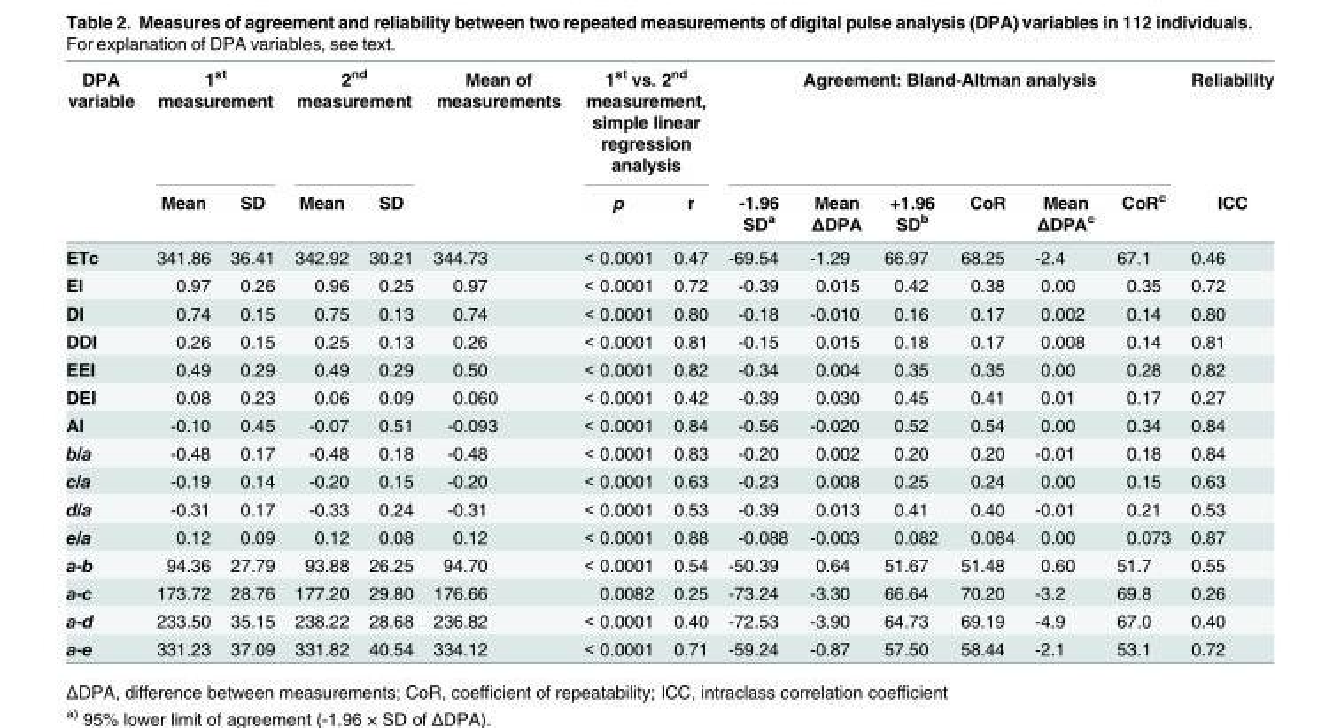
<table><thead><tr><td rowspan="2">DPA variable</td><td colspan="2">1<sup>st</sup> measurement</td><td colspan="2">2<sup>nd</sup> measurement</td><td rowspan="2">Mean of measurements</td><td colspan="2">1<sup>st</sup> vs. 2<sup>nd</sup> measurement, simple linear regression analysis</td><td colspan="6">Agreement: Bland-Altman analysis</td><td rowspan="2">Reliability ICC</td></tr><tr><td>Mean</td><td>SD</td><td>Mean</td><td>SD</td><td>p</td><td>r</td><td>-1.96 SD<sup>a</sup></td><td>Mean ΔDPA</td><td>+1.96 SD<sup>b</sup></td><td>CoR</td><td>Mean ΔDPA<sup>c</sup></td><td>CoR<sup>c</sup></td></tr></thead><tbody><tr><td>ETc</td><td>341.86</td><td>36.41</td><td>342.92</td><td>30.21</td><td>344.73</td><td>&lt; 0.0001</td><td>0.47</td><td>-69.54</td><td>-1.29</td><td>66.97</td><td>68.25</td><td>-2.4</td><td>67.1</td><td>0.46</td></tr><tr><td>EI</td><td>0.97</td><td>0.26</td><td>0.96</td><td>0.25</td><td>0.97</td><td>&lt; 0.0001</td><td>0.72</td><td>-0.39</td><td>0.015</td><td>0.42</td><td>0.38</td><td>0.00</td><td>0.35</td><td>0.72</td></tr><tr><td>DI</td><td>0.74</td><td>0.15</td><td>0.75</td><td>0.13</td><td>0.74</td><td>&lt; 0.0001</td><td>0.80</td><td>-0.18</td><td>-0.010</td><td>0.16</td><td>0.17</td><td>0.002</td><td>0.14</td><td>0.80</td></tr><tr><td>DDI</td><td>0.26</td><td>0.15</td><td>0.25</td><td>0.13</td><td>0.26</td><td>&lt; 0.0001</td><td>0.81</td><td>-0.15</td><td>0.015</td><td>0.18</td><td>0.17</td><td>0.008</td><td>0.14</td><td>0.81</td></tr><tr><td>EEI</td><td>0.49</td><td>0.29</td><td>0.49</td><td>0.29</td><td>0.50</td><td>&lt; 0.0001</td><td>0.82</td><td>-0.34</td><td>0.004</td><td>0.35</td><td>0.35</td><td>0.00</td><td>0.28</td><td>0.82</td></tr><tr><td>DEI</td><td>0.08</td><td>0.23</td><td>0.06</td><td>0.09</td><td>0.060</td><td>&lt; 0.0001</td><td>0.42</td><td>-0.39</td><td>0.030</td><td>0.45</td><td>0.41</td><td>0.01</td><td>0.17</td><td>0.27</td></tr><tr><td>AI</td><td>-0.10</td><td>0.45</td><td>-0.07</td><td>0.51</td><td>-0.093</td><td>&lt; 0.0001</td><td>0.84</td><td>-0.56</td><td>-0.020</td><td>0.52</td><td>0.54</td><td>0.00</td><td>0.34</td><td>0.84</td></tr><tr><td>b/a</td><td>-0.48</td><td>0.17</td><td>-0.48</td><td>0.18</td><td>-0.48</td><td>&lt; 0.0001</td><td>0.83</td><td>-0.20</td><td>0.002</td><td>0.20</td><td>0.20</td><td>-0.01</td><td>0.18</td><td>0.84</td></tr><tr><td>c/a</td><td>-0.19</td><td>0.14</td><td>-0.20</td><td>0.15</td><td>-0.20</td><td>&lt; 0.0001</td><td>0.63</td><td>-0.23</td><td>0.008</td><td>0.25</td><td>0.24</td><td>0.00</td><td>0.15</td><td>0.63</td></tr><tr><td>d/a</td><td>-0.31</td><td>0.17</td><td>-0.33</td><td>0.24</td><td>-0.31</td><td>&lt; 0.0001</td><td>0.53</td><td>-0.39</td><td>0.013</td><td>0.41</td><td>0.40</td><td>-0.01</td><td>0.21</td><td>0.53</td></tr><tr><td>e/a</td><td>0.12</td><td>0.09</td><td>0.12</td><td>0.08</td><td>0.12</td><td>&lt; 0.0001</td><td>0.88</td><td>-0.088</td><td>-0.003</td><td>0.082</td><td>0.084</td><td>0.00</td><td>0.073</td><td>0.87</td></tr><tr><td>a-b</td><td>94.36</td><td>27.79</td><td>93.88</td><td>26.25</td><td>94.70</td><td>&lt; 0.0001</td><td>0.54</td><td>-50.39</td><td>0.64</td><td>51.67</td><td>51.48</td><td>0.60</td><td>51.7</td><td>0.55</td></tr><tr><td>a-c</td><td>173.72</td><td>28.76</td><td>177.20</td><td>29.80</td><td>176.66</td><td>0.0082</td><td>0.25</td><td>-73.24</td><td>-3.30</td><td>66.64</td><td>70.20</td><td>-3.2</td><td>69.8</td><td>0.26</td></tr><tr><td>a-d</td><td>233.50</td><td>35.15</td><td>238.22</td><td>28.68</td><td>236.82</td><td>&lt; 0.0001</td><td>0.40</td><td>-72.53</td><td>-3.90</td><td>64.73</td><td>69.19</td><td>-4.9</td><td>67.0</td><td>0.40</td></tr><tr><td>a-e</td><td>331.23</td><td>37.09</td><td>331.82</td><td>40.54</td><td>334.12</td><td>&lt; 0.0001</td><td>0.71</td><td>-59.24</td><td>-0.87</td><td>57.50</td><td>58.44</td><td>-2.1</td><td>53.1</td><td>0.72</td></tr></tbody></table>